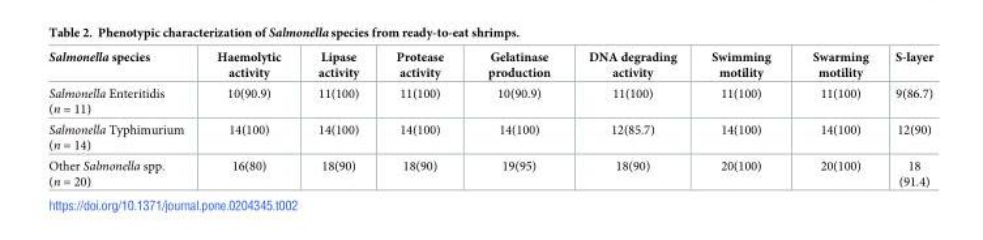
<table><thead><tr><td>Salmonella species</td><td>Haemolytic activity</td><td>Lipase activity</td><td>Protease activity</td><td>Gelatinase production</td><td>DNA degrading activity</td><td>Swimming motility</td><td>Swarming motility</td><td>S-layer</td></tr></thead><tbody><tr><td>Salmonella Enteritidis (n = 11)</td><td>10(90.9)</td><td>11(100)</td><td>11(100)</td><td>10(90.9)</td><td>11(100)</td><td>11(100)</td><td>11(100)</td><td>9(86.7)</td></tr><tr><td>Salmonella Typhimurium (n = 14)</td><td>14(100)</td><td>14(100)</td><td>14(100)</td><td>14(100)</td><td>12(85.7)</td><td>14(100)</td><td>14(100)</td><td>12(90)</td></tr><tr><td>Other Salmonella spp. (n = 20)</td><td>16(80)</td><td>18(90)</td><td>18(90)</td><td>19(95)</td><td>18(90)</td><td>20(100)</td><td>20(100)</td><td>18 (91.4)</td></tr></tbody></table>